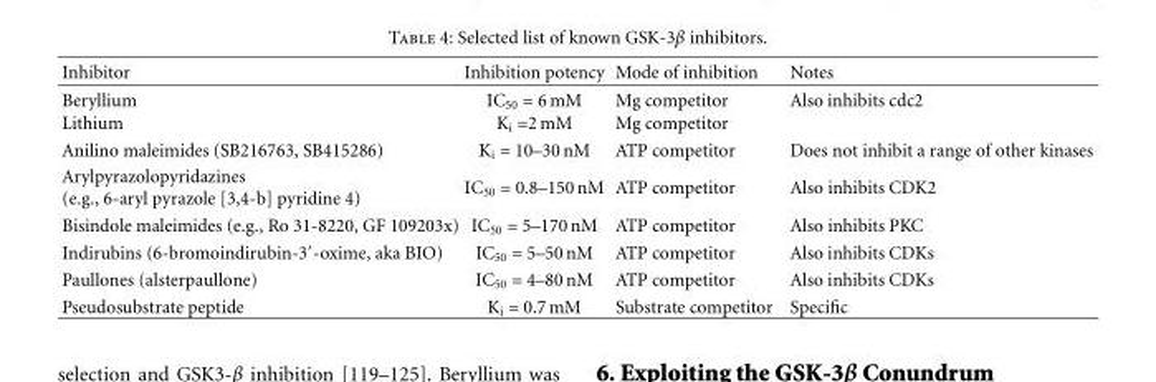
<table><thead><tr><td>Inhibitor</td><td>Inhibition potency</td><td>Mode of inhibition</td><td>Notes</td></tr></thead><tbody><tr><td>Beryllium</td><td>IC<sub>50</sub> = 6 mM</td><td>Mg competitor</td><td>Also inhibits cdc2</td></tr><tr><td>Lithium</td><td>K<sub>i</sub> =2 mM</td><td>Mg competitor</td><td></td></tr><tr><td>Anilino maleimides (SB216763, SB415286)</td><td>K<sub>i</sub> = 10–30 nM</td><td>ATP competitor</td><td>Does not inhibit a range of other kinases</td></tr><tr><td>Arylpyrazolopyridazines (e.g., 6-aryl pyrazole [3,4-b] pyridine 4)</td><td>IC<sub>50</sub> = 0.8–150 nM</td><td>ATP competitor</td><td>Also inhibits CDK2</td></tr><tr><td>Bisindole maleimides (e.g., Ro 31-8220, GF 109203x)</td><td>IC<sub>50</sub> = 5–170 nM</td><td>ATP competitor</td><td>Also inhibits PKC</td></tr><tr><td>Indirubins (6-bromoindirubin-3′-oxime, aka BIO)</td><td>IC<sub>50</sub> = 5–50 nM</td><td>ATP competitor</td><td>Also inhibits CDKs</td></tr><tr><td>Paullones (alsterpaullone)</td><td>IC<sub>50</sub> = 4–80 nM</td><td>ATP competitor</td><td>Also inhibits CDKs</td></tr><tr><td>Pseudosubstrate peptide</td><td>K<sub>i</sub> = 0.7 mM</td><td>Substrate competitor</td><td>Specific</td></tr></tbody></table>